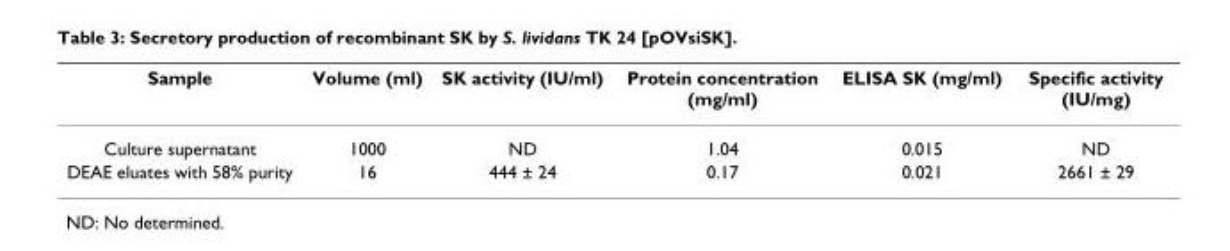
<table><thead><tr><td>Sample</td><td>Volume (ml)</td><td>SK activity (IU/ml)</td><td>Protein concentration (mg/ml)</td><td>ELISA SK (mg/ml)</td><td>Specific activity (IU/mg)</td></tr></thead><tbody><tr><td>Culture supernatant</td><td>1000</td><td>ND</td><td>1.04</td><td>0.015</td><td>ND</td></tr><tr><td>DEAE eluates with 58% purity</td><td>16</td><td>444 ± 24</td><td>0.17</td><td>0.021</td><td>2661 ± 29</td></tr></tbody></table>